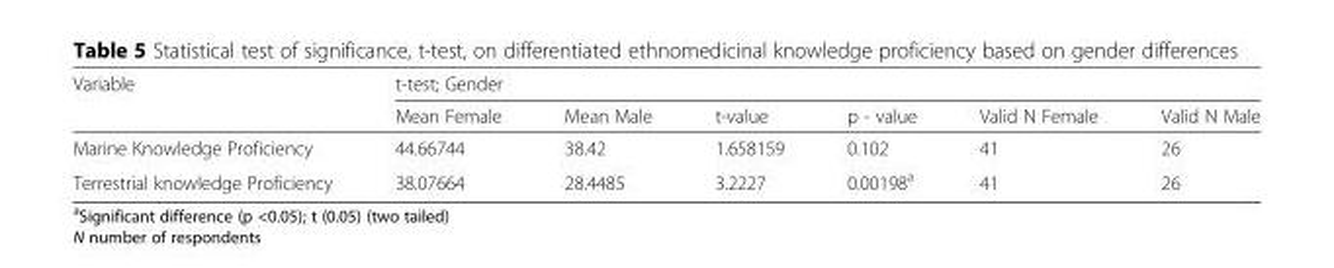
<table><thead><tr><td rowspan="2">Variable</td><td colspan="6">t-test; Gender</td></tr><tr><td>Mean Female</td><td>Mean Male</td><td>t-value</td><td>p - value</td><td>Valid N Female</td><td>Valid N Male</td></tr></thead><tbody><tr><td>Marine Knowledge Proficiency</td><td>44.66744</td><td>38.42</td><td>1.658159</td><td>0.102</td><td>41</td><td>26</td></tr><tr><td>Terrestrial knowledge Proficiency</td><td>38.07664</td><td>28.4485</td><td>3.2227</td><td>0.00198<sup>a</sup></td><td>41</td><td>26</td></tr></tbody></table>